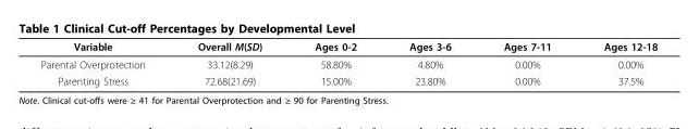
<table><thead><tr><td>Variable</td><td>Overall M(SD)</td><td>Ages 0-2</td><td>Ages 3-6</td><td>Ages 7-11</td><td>Ages 12-18</td></tr></thead><tbody><tr><td>Parental Overprotection</td><td>33.12(8.29)</td><td>58.80%</td><td>4.80%</td><td>0.00%</td><td>0.00%</td></tr><tr><td>Parenting Stress</td><td>72.68(21.69)</td><td>15.00%</td><td>23.80%</td><td>0.00%</td><td>37.5%</td></tr></tbody></table>